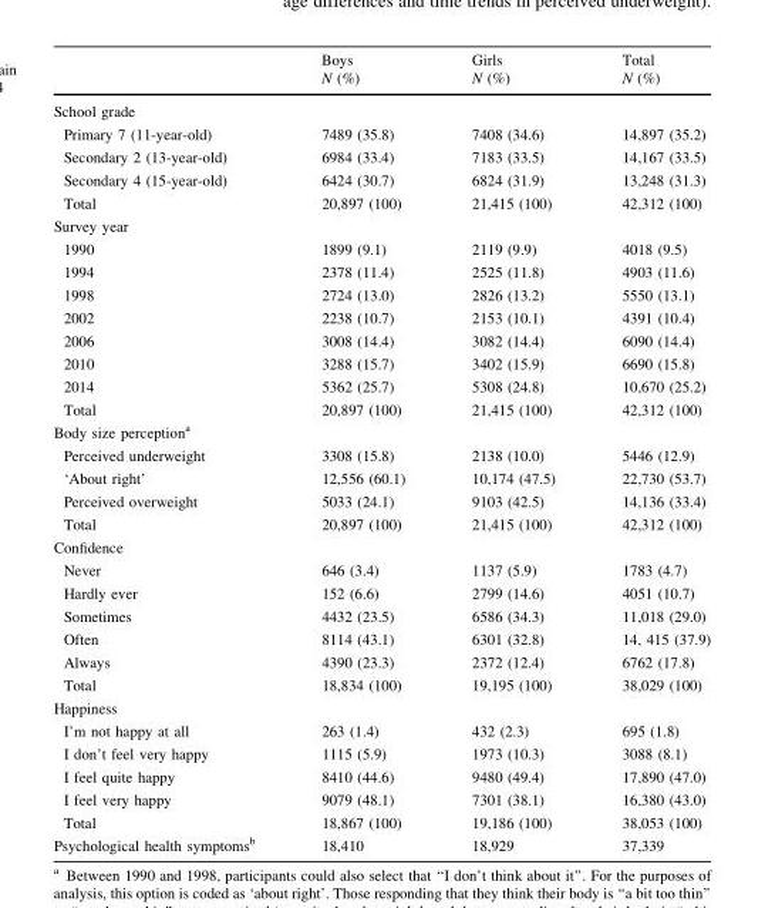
<table><thead><tr><td rowspan="2"></td><td rowspan="2">Boys N (%)</td><td rowspan="2">Girls N (%)</td><td rowspan="2">Total N (%)</td></tr><tr></tr></thead><tbody><tr><td colspan="4">School grade</td></tr><tr><td>Primary 7 (11-year-old)</td><td>7489 (35.8)</td><td>7408 (34.6)</td><td>14,897 (35.2)</td></tr><tr><td>Secondary 2 (13-year-old)</td><td>6984 (33.4)</td><td>7183 (33.5)</td><td>14,167 (33.5)</td></tr><tr><td>Secondary 4 (15-year-old)</td><td>6424 (30.7)</td><td>6824 (31.9)</td><td>13,248 (31.3)</td></tr><tr><td>Total</td><td>20,897 (100)</td><td>21,415 (100)</td><td>42,312 (100)</td></tr><tr><td colspan="4">Survey year</td></tr><tr><td>1990</td><td>1899 (9.1)</td><td>2119 (9.9)</td><td>4018 (9.5)</td></tr><tr><td>1994</td><td>2378 (11.4)</td><td>2525 (11.8)</td><td>4903 (11.6)</td></tr><tr><td>1998</td><td>2724 (13.0)</td><td>2826 (13.2)</td><td>5550 (13.1)</td></tr><tr><td>2002</td><td>2238 (10.7)</td><td>2153 (10.1)</td><td>4391 (10.4)</td></tr><tr><td>2006</td><td>3008 (14.4)</td><td>3082 (14.4)</td><td>6090 (14.4)</td></tr><tr><td>2010</td><td>3288 (15.7)</td><td>3402 (15.9)</td><td>6690 (15.8)</td></tr><tr><td>2014</td><td>5362 (25.7)</td><td>5308 (24.8)</td><td>10,670 (25.2)</td></tr><tr><td>Total</td><td>20,897 (100)</td><td>21,415 (100)</td><td>42,312 (100)</td></tr><tr><td colspan="4">Body size perception<sup>a</sup></td></tr><tr><td>Perceived underweight</td><td>3308 (15.8)</td><td>2138 (10.0)</td><td>5446 (12.9)</td></tr><tr><td>‘About right’</td><td>12,556 (60.1)</td><td>10,174 (47.5)</td><td>22,730 (53.7)</td></tr><tr><td>Perceived overweight</td><td>5033 (24.1)</td><td>9103 (42.5)</td><td>14,136 (33.4)</td></tr><tr><td>Total</td><td>20,897 (100)</td><td>21,415 (100)</td><td>42,312 (100)</td></tr><tr><td colspan="4">Confidence</td></tr><tr><td>Never</td><td>646 (3.4)</td><td>1137 (5.9)</td><td>1783 (4.7)</td></tr><tr><td>Hardly ever</td><td>152 (6.6)</td><td>2799 (14.6)</td><td>4051 (10.7)</td></tr><tr><td>Sometimes</td><td>4432 (23.5)</td><td>6586 (34.3)</td><td>11,018 (29.0)</td></tr><tr><td>Often</td><td>8114 (43.1)</td><td>6301 (32.8)</td><td>14, 415 (37.9)</td></tr><tr><td>Always</td><td>4390 (23.3)</td><td>2372 (12.4)</td><td>6762 (17.8)</td></tr><tr><td>Total</td><td>18,834 (100)</td><td>19,195 (100)</td><td>38,029 (100)</td></tr><tr><td colspan="4">Happiness</td></tr><tr><td>I’m not happy at all</td><td>263 (1.4)</td><td>432 (2.3)</td><td>695 (1.8)</td></tr><tr><td>I don’t feel very happy</td><td>1115 (5.9)</td><td>1973 (10.3)</td><td>3088 (8.1)</td></tr><tr><td>I feel quite happy</td><td>8410 (44.6)</td><td>9480 (49.4)</td><td>17,890 (47.0)</td></tr><tr><td>I feel very happy</td><td>9079 (48.1)</td><td>7301 (38.1)</td><td>16,380 (43.0)</td></tr><tr><td>Total</td><td>18,867 (100)</td><td>19,186 (100)</td><td>38,053 (100)</td></tr><tr><td>Psychological health symptoms<sup>b</sup></td><td>18,410</td><td>18,929</td><td>37,339</td></tr></tbody></table>